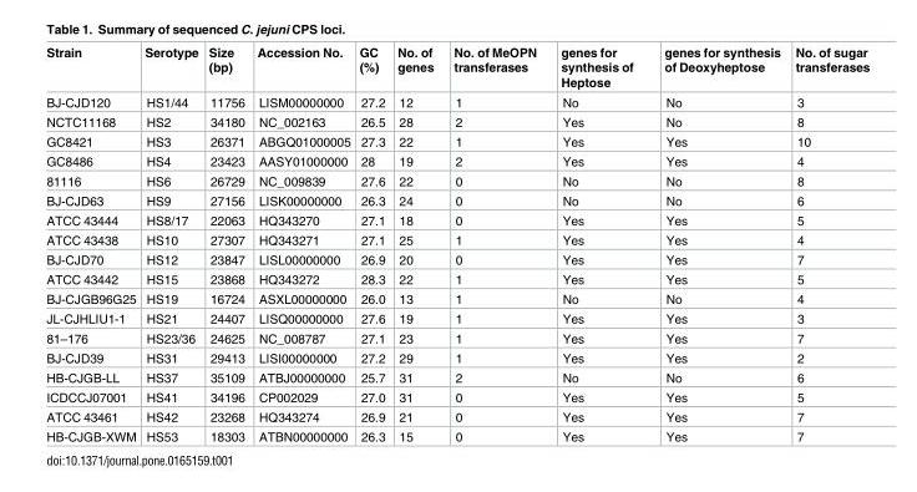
<table><thead><tr><td>Strain</td><td>Serotype</td><td>Size (bp)</td><td>Accession No.</td><td>GC (%)</td><td>No. of genes</td><td>No. of MeOPN transferases</td><td>genes for synthesis of Heptose</td><td>genes for synthesis of Deoxyheptose</td><td>No. of sugar transferases</td></tr></thead><tbody><tr><td>BJ-CJD120</td><td>HS1/44</td><td>11756</td><td>LISM00000000</td><td>27.2</td><td>12</td><td>1</td><td>No</td><td>No</td><td>3</td></tr><tr><td>NCTC11168</td><td>HS2</td><td>34180</td><td>NC_002163</td><td>26.5</td><td>28</td><td>2</td><td>Yes</td><td>No</td><td>8</td></tr><tr><td>GC8421</td><td>HS3</td><td>26371</td><td>ABGQ01000005</td><td>27.3</td><td>22</td><td>1</td><td>Yes</td><td>Yes</td><td>10</td></tr><tr><td>GC8486</td><td>HS4</td><td>23423</td><td>AASY01000000</td><td>28</td><td>19</td><td>2</td><td>Yes</td><td>Yes</td><td>4</td></tr><tr><td>81116</td><td>HS6</td><td>26729</td><td>NC_009839</td><td>27.6</td><td>22</td><td>0</td><td>No</td><td>No</td><td>8</td></tr><tr><td>BJ-CJD63</td><td>HS9</td><td>27156</td><td>LISK00000000</td><td>26.3</td><td>24</td><td>0</td><td>No</td><td>No</td><td>6</td></tr><tr><td>ATCC 43444</td><td>HS8/17</td><td>22063</td><td>HQ343270</td><td>27.1</td><td>18</td><td>0</td><td>Yes</td><td>Yes</td><td>5</td></tr><tr><td>ATCC 43438</td><td>HS10</td><td>27307</td><td>HQ343271</td><td>27.1</td><td>25</td><td>1</td><td>Yes</td><td>Yes</td><td>4</td></tr><tr><td>BJ-CJD70</td><td>HS12</td><td>23847</td><td>LISL00000000</td><td>26.9</td><td>20</td><td>0</td><td>Yes</td><td>Yes</td><td>7</td></tr><tr><td>ATCC 43442</td><td>HS15</td><td>23868</td><td>HQ343272</td><td>28.3</td><td>22</td><td>1</td><td>Yes</td><td>Yes</td><td>5</td></tr><tr><td>BJ-CJGB96G25</td><td>HS19</td><td>16724</td><td>ASXL00000000</td><td>26.0</td><td>13</td><td>1</td><td>No</td><td>No</td><td>4</td></tr><tr><td>JL-CJHLIU1-1</td><td>HS21</td><td>24407</td><td>LISQ00000000</td><td>27.6</td><td>19</td><td>1</td><td>Yes</td><td>Yes</td><td>3</td></tr><tr><td>81–176</td><td>HS23/36</td><td>24625</td><td>NC_008787</td><td>27.1</td><td>23</td><td>1</td><td>Yes</td><td>Yes</td><td>7</td></tr><tr><td>BJ-CJD39</td><td>HS31</td><td>29413</td><td>LISI00000000</td><td>27.2</td><td>29</td><td>1</td><td>Yes</td><td>Yes</td><td>2</td></tr><tr><td>HB-CJGB-LL</td><td>HS37</td><td>35109</td><td>ATBJ00000000</td><td>25.7</td><td>31</td><td>2</td><td>No</td><td>No</td><td>6</td></tr><tr><td>ICDCCJ07001</td><td>HS41</td><td>34196</td><td>CP002029</td><td>27.0</td><td>31</td><td>0</td><td>Yes</td><td>Yes</td><td>5</td></tr><tr><td>ATCC 43461</td><td>HS42</td><td>23268</td><td>HQ343274</td><td>26.9</td><td>21</td><td>0</td><td>Yes</td><td>Yes</td><td>7</td></tr><tr><td>HB-CJGB-XWM</td><td>HS53</td><td>18303</td><td>ATBN00000000</td><td>26.3</td><td>15</td><td>0</td><td>Yes</td><td>Yes</td><td>7</td></tr></tbody></table>